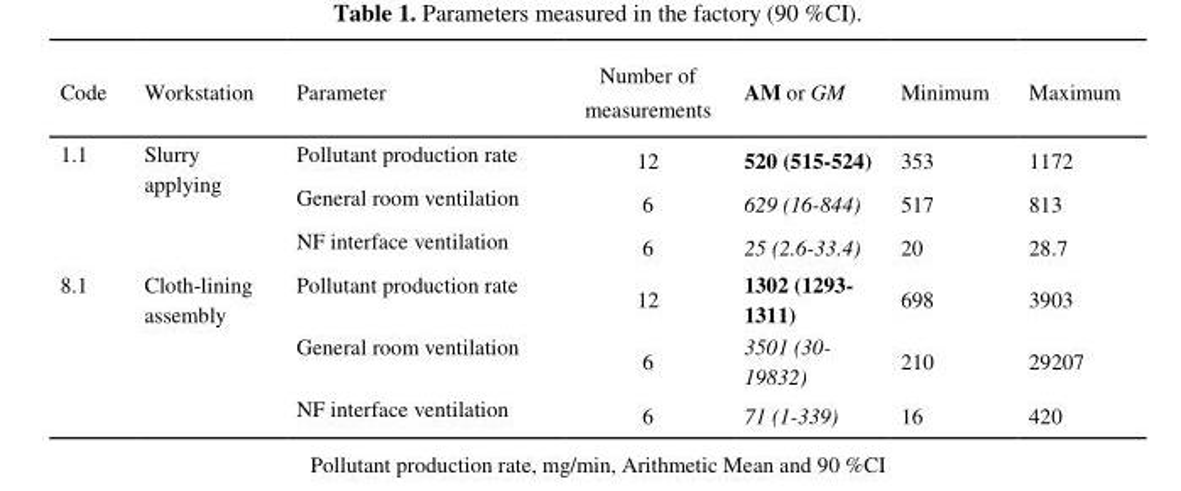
<table><thead><tr><td>Code</td><td>Workstation</td><td>Parameter</td><td>Number of measurements</td><td>AM or GM</td><td>Minimum</td><td>Maximum</td></tr></thead><tbody><tr><td rowspan="3">1.1</td><td rowspan="3">Slurry applying</td><td>Pollutant production rate</td><td>12</td><td>520 (515-524)</td><td>353</td><td>1172</td></tr><tr><td>General room ventilation</td><td>6</td><td>629 (16-844)</td><td>517</td><td>813</td></tr><tr><td>NF interface ventilation</td><td>6</td><td>25 (2.6-33.4)</td><td>20</td><td>28.7</td></tr><tr><td rowspan="3">8.1</td><td rowspan="3">Cloth-lining assembly</td><td>Pollutant production rate</td><td>12</td><td>1302 (1293- 1311)</td><td>698</td><td>3903</td></tr><tr><td>General room ventilation</td><td>6</td><td>3501 (30- 19832)</td><td>210</td><td>29207</td></tr><tr><td>NF interface ventilation</td><td>6</td><td>71 (1-339)</td><td>16</td><td>420</td></tr></tbody></table>